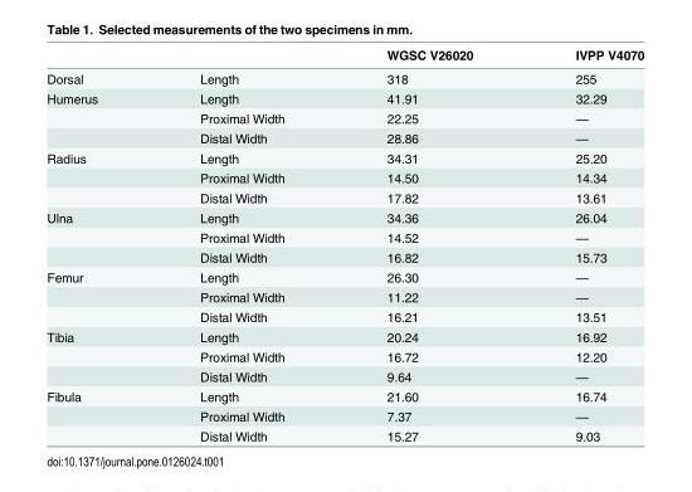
<table><thead><tr><td></td><td></td><td>WGSC V26020</td><td>IVPP V4070</td></tr></thead><tbody><tr><td>Dorsal</td><td>Length</td><td>318</td><td>255</td></tr><tr><td rowspan="3">Humerus</td><td>Length</td><td>41.91</td><td>32.29</td></tr><tr><td>Proximal Width</td><td>22.25</td><td>—</td></tr><tr><td>Distal Width</td><td>28.86</td><td>—</td></tr><tr><td rowspan="3">Radius</td><td>Length</td><td>34.31</td><td>25.20</td></tr><tr><td>Proximal Width</td><td>14.50</td><td>14.34</td></tr><tr><td>Distal Width</td><td>17.82</td><td>13.61</td></tr><tr><td rowspan="3">Ulna</td><td>Length</td><td>34.36</td><td>26.04</td></tr><tr><td>Proximal Width</td><td>14.52</td><td>—</td></tr><tr><td>Distal Width</td><td>16.82</td><td>15.73</td></tr><tr><td rowspan="3">Femur</td><td>Length</td><td>26.30</td><td>—</td></tr><tr><td>Proximal Width</td><td>11.22</td><td>—</td></tr><tr><td>Distal Width</td><td>16.21</td><td>13.51</td></tr><tr><td rowspan="3">Tibia</td><td>Length</td><td>20.24</td><td>16.92</td></tr><tr><td>Proximal Width</td><td>16.72</td><td>12.20</td></tr><tr><td>Distal Width</td><td>9.64</td><td>—</td></tr><tr><td rowspan="3">Fibula</td><td>Length</td><td>21.60</td><td>16.74</td></tr><tr><td>Proximal Width</td><td>7.37</td><td>—</td></tr><tr><td>Distal Width</td><td>15.27</td><td>9.03</td></tr></tbody></table>